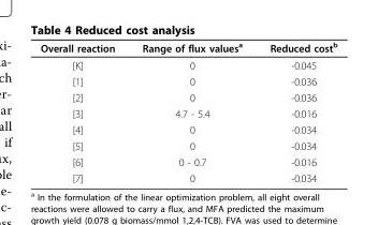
<table><thead><tr><td>Overall reaction</td><td>Range of flux values<sup>a</sup></td><td>Reduced cost<sup>b</sup></td></tr></thead><tbody><tr><td>[K]</td><td>0</td><td>-0.045</td></tr><tr><td>[1]</td><td>0</td><td>-0.036</td></tr><tr><td>[2]</td><td>0</td><td>-0.036</td></tr><tr><td>[3]</td><td>4.7 - 5.4</td><td>-0.016</td></tr><tr><td>[4]</td><td>0</td><td>-0.034</td></tr><tr><td>[5]</td><td>0</td><td>-0.034</td></tr><tr><td>[6]</td><td>0 - 0.7</td><td>-0.016</td></tr><tr><td>[7]</td><td>0</td><td>-0.034</td></tr></tbody></table>